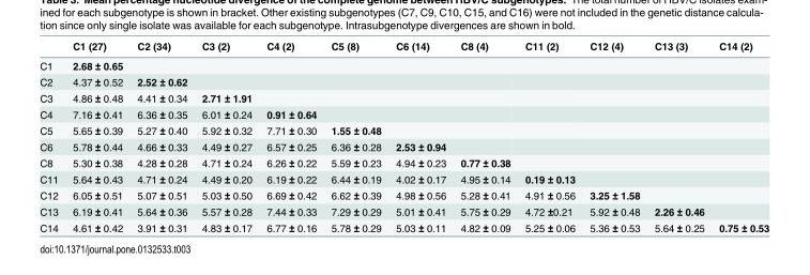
<table><thead><tr><td></td><td>C1 (27)</td><td>C2 (34)</td><td>C3 (2)</td><td>C4 (2)</td><td>C5 (8)</td><td>C6 (14)</td><td>C8 (4)</td><td>C11 (2)</td><td>C12 (4)</td><td>C13 (3)</td><td>C14 (2)</td></tr></thead><tbody><tr><td>C1</td><td>2.68 ± 0.65</td><td></td><td></td><td></td><td></td><td></td><td></td><td></td><td></td><td></td><td></td></tr><tr><td>C2</td><td>4.37 ± 0.52</td><td>2.52 ± 0.62</td><td></td><td></td><td></td><td></td><td></td><td></td><td></td><td></td><td></td></tr><tr><td>C3</td><td>4.86 ± 0.48</td><td>4.41 ± 0.34</td><td>2.71 ± 1.91</td><td></td><td></td><td></td><td></td><td></td><td></td><td></td><td></td></tr><tr><td>C4</td><td>7.16 ± 0.41</td><td>6.36 ± 0.35</td><td>6.01 ± 0.24</td><td>0.91 ± 0.64</td><td></td><td></td><td></td><td></td><td></td><td></td><td></td></tr><tr><td>C5</td><td>5.65 ± 0.39</td><td>5.27 ± 0.40</td><td>5.92 ± 0.32</td><td>7.71 ± 0.30</td><td>1.55 ± 0.48</td><td></td><td></td><td></td><td></td><td></td><td></td></tr><tr><td>C6</td><td>5.78 ± 0.44</td><td>4.66 ± 0.33</td><td>4.49 ± 0.27</td><td>6.57 ± 0.25</td><td>6.36 ± 0.28</td><td>2.53 ± 0.94</td><td></td><td></td><td></td><td></td><td></td></tr><tr><td>C8</td><td>5.30 ± 0.38</td><td>4.28 ± 0.28</td><td>4.71 ± 0.24</td><td>6.26 ± 0.22</td><td>5.59 ± 0.23</td><td>4.94 ± 0.23</td><td>0.77 ± 0.38</td><td></td><td></td><td></td><td></td></tr><tr><td>C11</td><td>5.64 ± 0.43</td><td>4.71 ± 0.24</td><td>4.49 ± 0.20</td><td>6.19 ± 0.22</td><td>6.44 ± 0.19</td><td>4.02 ± 0.17</td><td>4.95 ± 0.14</td><td>0.19 ± 0.13</td><td></td><td></td><td></td></tr><tr><td>C12</td><td>6.05 ± 0.51</td><td>5.07 ± 0.51</td><td>5.03 ± 0.50</td><td>6.69 ± 0.42</td><td>6.62 ± 0.39</td><td>4.98 ± 0.56</td><td>5.28 ± 0.41</td><td>4.91 ± 0.56</td><td>3.25 ± 1.58</td><td></td><td></td></tr><tr><td>C13</td><td>6.19 ± 0.41</td><td>5.64 ± 0.36</td><td>5.57 ± 0.28</td><td>7.44 ± 0.33</td><td>7.29 ± 0.29</td><td>5.01 ± 0.41</td><td>5.75 ± 0.29</td><td>4.72 ±0.21</td><td>5.92 ± 0.48</td><td>2.26 ± 0.46</td><td></td></tr><tr><td>C14</td><td>4.61 ± 0.42</td><td>3.91 ± 0.31</td><td>4.83 ± 0.17</td><td>6.77 ± 0.16</td><td>5.78 ± 0.29</td><td>5.03 ± 0.11</td><td>4.82 ± 0.09</td><td>5.25 ± 0.06</td><td>5.36 ± 0.53</td><td>5.64 ± 0.25</td><td>0.75 ± 0.53</td></tr></tbody></table>